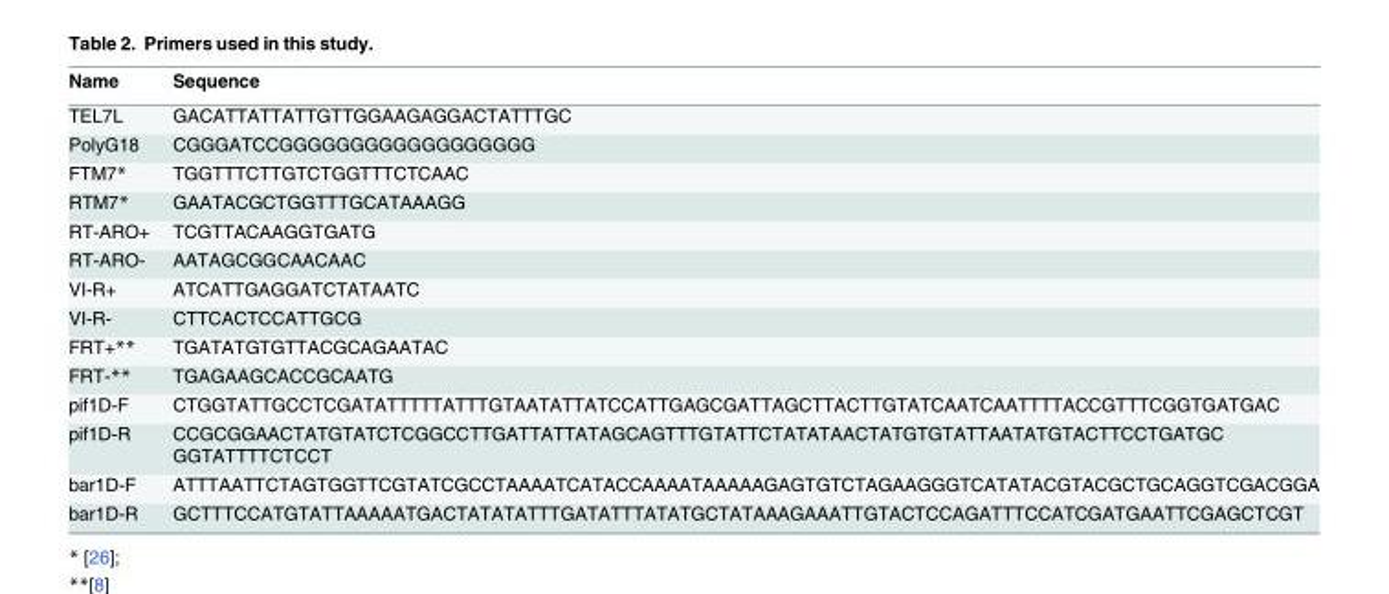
<table><thead><tr><td>Name</td><td>Sequence</td></tr></thead><tbody><tr><td>TEL7L</td><td>GACATTATTATTGTTGGAAGAGGACTATTTGC</td></tr><tr><td>PolyG18</td><td>CGGGATCCGGGGGGGGGGGGGGGGGG</td></tr><tr><td>FTM7*</td><td>TGGTTTCTTGTCTGGTTTCTCAAC</td></tr><tr><td>RTM7*</td><td>GAATACGCTGGTTTGCATAAAGG</td></tr><tr><td>RT-ARO+</td><td>TCGTTACAAGGTGATG</td></tr><tr><td>RT-ARO-</td><td>AATAGCGGCAACAAC</td></tr><tr><td>VI-R+</td><td>ATCATTGAGGATCTATAATC</td></tr><tr><td>VI-R-</td><td>CTTCACTCCATTGCG</td></tr><tr><td>FRT+**</td><td>TGATATGTGTTACGCAGAATAC</td></tr><tr><td>FRT-**</td><td>TGAGAAGCACCGCAATG</td></tr><tr><td>pif1D-F</td><td>CTGGTATTGCCTCGATATTTTTATTTGTAATATTATCCATTGAGCGATTAGCTTACTTGTATCAATCAATTTTACCGTTTCGGTGATGAC</td></tr><tr><td>pif1D-R</td><td>CCGCGGAACTATGTATCTCGGCCTTGATTATTATAGCAGTTTGTATTCTATATAACTATGTGTATTAATATGTACTTCCTGATGC GGTATTTTCTCCT</td></tr><tr><td>bar1D-F</td><td>ATTTAATTCTAGTGGTTCGTATCGCCTAAAATCATACCAAAATAAAAAGAGTGTCTAGAAGGGTCATATACGTACGCTGCAGGTCGACGGA</td></tr><tr><td>bar1D-R</td><td>GCTTTCCATGTATTAAAAATGACTATATATTTGATATTTATATGCTATAAAGAAATTGTACTCCAGATTTCCATCGATGAATTCGAGCTCGT</td></tr></tbody></table>